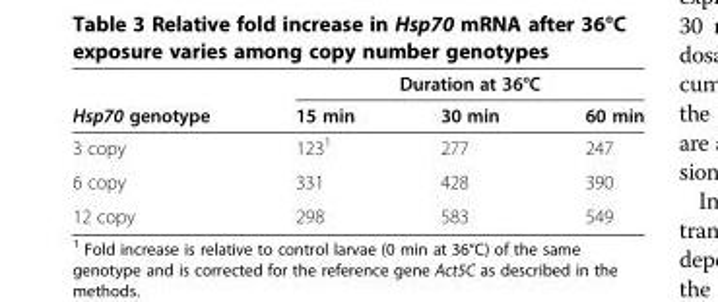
<table><thead><tr><td rowspan="2">Hsp70 genotype</td><td colspan="3">Duration at 36°C</td></tr><tr><td>15 min</td><td>30 min</td><td>60 min</td></tr></thead><tbody><tr><td>3 copy</td><td>123<sup>1</sup></td><td>277</td><td>247</td></tr><tr><td>6 copy</td><td>331</td><td>428</td><td>390</td></tr><tr><td>12 copy</td><td>298</td><td>583</td><td>549</td></tr></tbody></table>